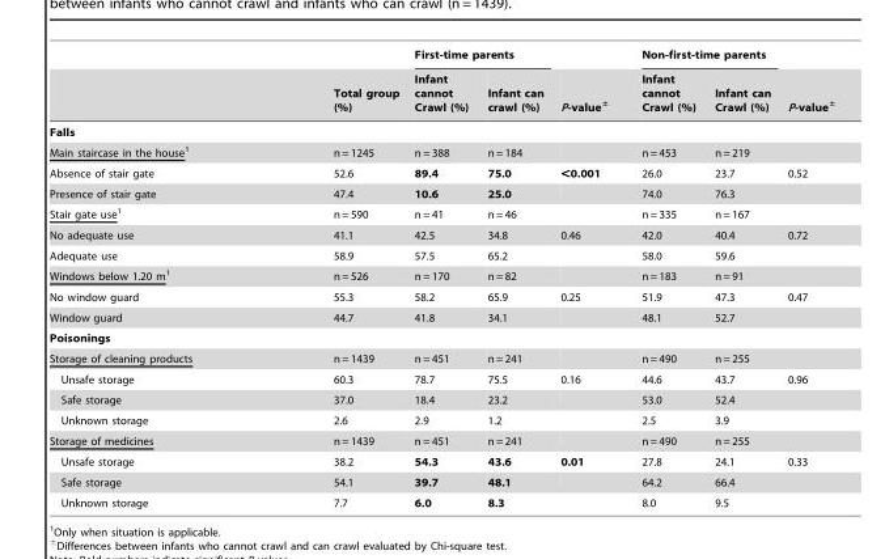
<table><thead><tr><td rowspan="2"></td><td rowspan="2">Total group (%)</td><td colspan="2">First-time parents</td><td rowspan="2">P-value±</td><td colspan="2">Non-first-time parents</td><td rowspan="2">P-value±</td></tr><tr><td>Infant cannot Crawl (%)</td><td>Infant can crawl (%)</td><td>Infant cannot Crawl (%)</td><td>Infant can Crawl (%)</td></tr></thead><tbody><tr><td colspan="8">Falls</td></tr><tr><td>Main staircase in the house1</td><td>n = 1245</td><td>n = 388</td><td>n = 184</td><td></td><td>n = 453</td><td>n = 219</td><td></td></tr><tr><td>Absence of stair gate</td><td>52.6</td><td>89.4</td><td>75.0</td><td>&lt;0.001</td><td>26.0</td><td>23.7</td><td>0.52</td></tr><tr><td>Presence of stair gate</td><td>47.4</td><td>10.6</td><td>25.0</td><td></td><td>74.0</td><td>76.3</td><td></td></tr><tr><td>Stair gate use1</td><td>n = 590</td><td>n = 41</td><td>n = 46</td><td></td><td>n = 335</td><td>n = 167</td><td></td></tr><tr><td>No adequate use</td><td>41.1</td><td>42.5</td><td>34.8</td><td>0.46</td><td>42.0</td><td>40.4</td><td>0.72</td></tr><tr><td>Adequate use</td><td>58.9</td><td>57.5</td><td>65.2</td><td></td><td>58.0</td><td>59.6</td><td></td></tr><tr><td>Windows below 1.20 m1</td><td>n = 526</td><td>n = 170</td><td>n = 82</td><td></td><td>n = 183</td><td>n = 91</td><td></td></tr><tr><td>No window guard</td><td>55.3</td><td>58.2</td><td>65.9</td><td>0.25</td><td>51.9</td><td>47.3</td><td>0.47</td></tr><tr><td>Window guard</td><td>44.7</td><td>41.8</td><td>34.1</td><td></td><td>48.1</td><td>52.7</td><td></td></tr><tr><td colspan="8">Poisonings</td></tr><tr><td>Storage of cleaning products</td><td>n = 1439</td><td>n = 451</td><td>n = 241</td><td></td><td>n = 490</td><td>n = 255</td><td></td></tr><tr><td>Unsafe storage</td><td>60.3</td><td>78.7</td><td>75.5</td><td>0.16</td><td>44.6</td><td>43.7</td><td>0.96</td></tr><tr><td>Safe storage</td><td>37.0</td><td>18.4</td><td>23.2</td><td></td><td>53.0</td><td>52.4</td><td></td></tr><tr><td>Unknown storage</td><td>2.6</td><td>2.9</td><td>1.2</td><td></td><td>2.5</td><td>3.9</td><td></td></tr><tr><td>Storage of medicines</td><td>n = 1439</td><td>n = 451</td><td>n = 241</td><td></td><td>n = 490</td><td>n = 255</td><td></td></tr><tr><td>Unsafe storage</td><td>38.2</td><td>54.3</td><td>43.6</td><td>0.01</td><td>27.8</td><td>24.1</td><td>0.33</td></tr><tr><td>Safe storage</td><td>54.1</td><td>39.7</td><td>48.1</td><td></td><td>64.2</td><td>66.4</td><td></td></tr><tr><td>Unknown storage</td><td>7.7</td><td>6.0</td><td>8.3</td><td></td><td>8.0</td><td>9.5</td><td></td></tr></tbody></table>